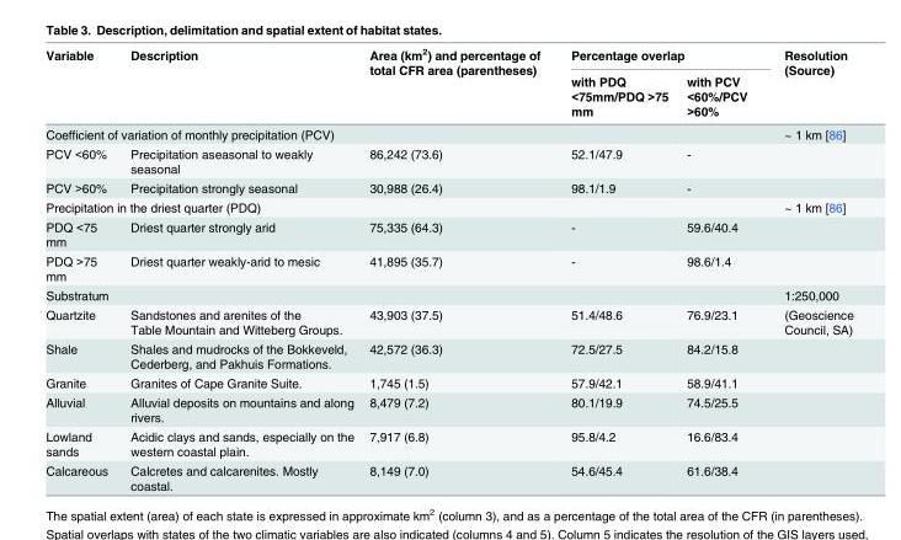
<table><thead><tr><td rowspan="2">Variable</td><td rowspan="2">Description</td><td rowspan="2">Area (km<sup>2</sup>) and percentage of total CFR area (parentheses)</td><td colspan="2">Percentage overlap</td><td rowspan="2">Resolution (Source)</td></tr><tr><td>with PDQ &lt;75mm/PDQ &gt;75 mm</td><td>with PCV &lt;60%/PCV &gt;60%</td></tr></thead><tbody><tr><td colspan="2">Coefficient of variation of monthly precipitation (PCV)</td><td></td><td></td><td></td><td>~ 1 km [86]</td></tr><tr><td>PCV &lt;60%</td><td>Precipitation aseasonal to weakly seasonal</td><td>86,242 (73.6)</td><td>52.1/47.9</td><td>-</td><td></td></tr><tr><td>PCV &gt;60%</td><td>Precipitation strongly seasonal</td><td>30,988 (26.4)</td><td>98.1/1.9</td><td>-</td><td></td></tr><tr><td colspan="2">Precipitation in the driest quarter (PDQ)</td><td></td><td></td><td></td><td>~ 1 km [86]</td></tr><tr><td>PDQ &lt;75 mm</td><td>Driest quarter strongly arid</td><td>75,335 (64.3)</td><td>-</td><td>59.6/40.4</td><td></td></tr><tr><td>PDQ &gt;75 mm</td><td>Driest quarter weakly-arid to mesic</td><td>41,895 (35.7)</td><td>-</td><td>98.6/1.4</td><td></td></tr><tr><td>Substratum</td><td></td><td></td><td></td><td></td><td>1:250,000</td></tr><tr><td>Quartzite</td><td>Sandstones and arenites of the Table Mountain and Witteberg Groups.</td><td>43,903 (37.5)</td><td>51.4/48.6</td><td>76.9/23.1</td><td>(Geoscience Council, SA)</td></tr><tr><td>Shale</td><td>Shales and mudrocks of the Bokkeveld, Cederberg, and Pakhuis Formations.</td><td>42,572 (36.3)</td><td>72.5/27.5</td><td>84.2/15.8</td><td></td></tr><tr><td>Granite</td><td>Granites of Cape Granite Suite.</td><td>1,745 (1.5)</td><td>57.9/42.1</td><td>58.9/41.1</td><td></td></tr><tr><td>Alluvial</td><td>Alluvial deposits on mountains and along rivers.</td><td>8,479 (7.2)</td><td>80.1/19.9</td><td>74.5/25.5</td><td></td></tr><tr><td>Lowland sands</td><td>Acidic clays and sands, especially on the western coastal plain.</td><td>7,917 (6.8)</td><td>95.8/4.2</td><td>16.6/83.4</td><td></td></tr><tr><td>Calcareous</td><td>Calcretes and calcarenites. Mostly coastal.</td><td>8,149 (7.0)</td><td>54.6/45.4</td><td>61.6/38.4</td><td></td></tr></tbody></table>